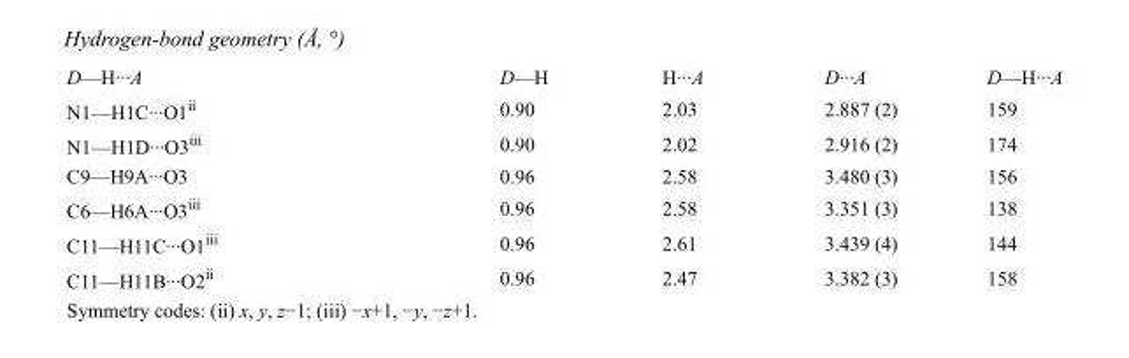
<table><tbody><tr><td>D—H···A</td><td>D—H</td><td>H···A</td><td>D···A</td><td>D—H···A</td></tr><tr><td>N1—H1C···O1<sup>ii</sup></td><td>0.90</td><td>2.03</td><td>2.887 (2)</td><td>159</td></tr><tr><td>N1—H1D···O3<sup>iii</sup></td><td>0.90</td><td>2.02</td><td>2.916 (2)</td><td>174</td></tr><tr><td>C9—H9A···O3</td><td>0.96</td><td>2.58</td><td>3.480 (3)</td><td>156</td></tr><tr><td>C6—H6A···O3<sup>iii</sup></td><td>0.96</td><td>2.58</td><td>3.351 (3)</td><td>138</td></tr><tr><td>C11—H11C···O1<sup>iii</sup></td><td>0.96</td><td>2.61</td><td>3.439 (4)</td><td>144</td></tr><tr><td>C11—H11B···O2<sup>ii</sup></td><td>0.96</td><td>2.47</td><td>3.382 (3)</td><td>158</td></tr></tbody></table>